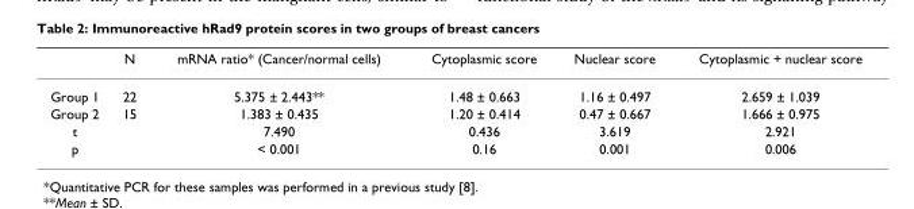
<table><thead><tr><td></td><td>N</td><td>mRNA ratio* (Cancer/normal cells)</td><td>Cytoplasmic score</td><td>Nuclear score</td><td>Cytoplasmic + nuclear score</td></tr></thead><tbody><tr><td>Group 1</td><td>22</td><td>5.375 ± 2.443**</td><td>1.48 ± 0.663</td><td>1.16 ± 0.497</td><td>2.659 ± 1.039</td></tr><tr><td>Group 2</td><td>15</td><td>1.383 ± 0.435</td><td>1.20 ± 0.414</td><td>0.47 ± 0.667</td><td>1.666 ± 0.975</td></tr><tr><td>t</td><td></td><td>7.490</td><td>0.436</td><td>3.619</td><td>2.921</td></tr><tr><td>p</td><td></td><td>&lt; 0.001</td><td>0.16</td><td>0.001</td><td>0.006</td></tr></tbody></table>